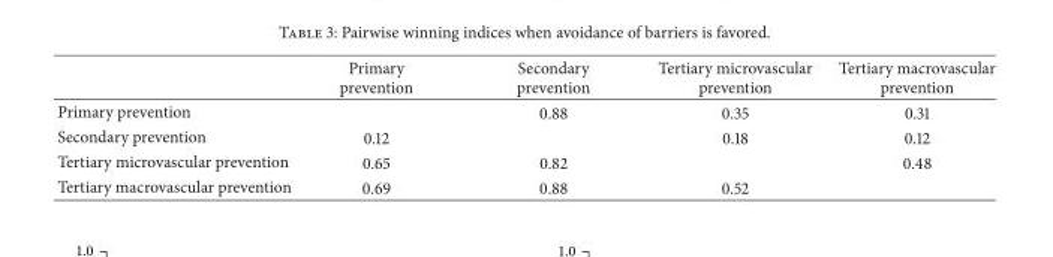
<table><thead><tr><td></td><td>Primary prevention</td><td>Secondary prevention</td><td>Tertiary microvascular prevention</td><td>Tertiary macrovascular prevention</td></tr></thead><tbody><tr><td>Primary prevention</td><td></td><td>0.88</td><td>0.35</td><td>0.31</td></tr><tr><td>Secondary prevention</td><td>0.12</td><td></td><td>0.18</td><td>0.12</td></tr><tr><td>Tertiary microvascular prevention</td><td>0.65</td><td>0.82</td><td></td><td>0.48</td></tr><tr><td>Tertiary macrovascular prevention</td><td>0.69</td><td>0.88</td><td>0.52</td><td></td></tr></tbody></table>